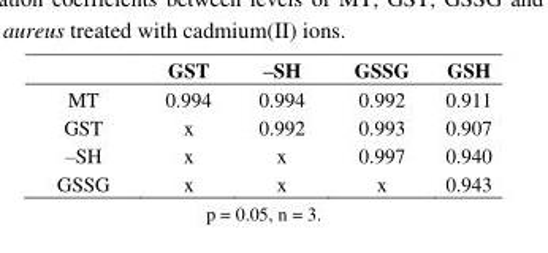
<table><thead><tr><td></td><td>GST</td><td>–SH</td><td>GSSG</td><td>GSH</td></tr></thead><tbody><tr><td>MT</td><td>0.994</td><td>0.994</td><td>0.992</td><td>0.911</td></tr><tr><td>GST</td><td>x</td><td>0.992</td><td>0.993</td><td>0.907</td></tr><tr><td>–SH</td><td>x</td><td>x</td><td>0.997</td><td>0.940</td></tr><tr><td>GSSG</td><td>x</td><td>x</td><td>x</td><td>0.943</td></tr></tbody></table>